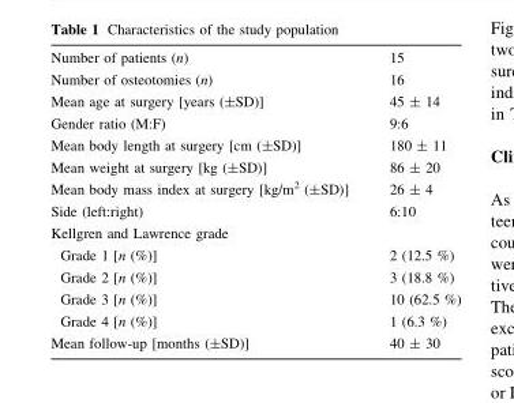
<table><tbody><tr><td>Number of patients (n)</td><td>15</td></tr><tr><td>Number of osteotomies (n)</td><td>16</td></tr><tr><td>Mean age at surgery [years (±SD)]</td><td>45 ± 14</td></tr><tr><td>Gender ratio (M:F)</td><td>9:6</td></tr><tr><td>Mean body length at surgery [cm (±SD)]</td><td>180 ± 11</td></tr><tr><td>Mean weight at surgery [kg (±SD)]</td><td>86 ± 20</td></tr><tr><td>Mean body mass index at surgery [kg/m<sup>2</sup> (±SD)]</td><td>26 ± 4</td></tr><tr><td>Side (left:right)</td><td>6:10</td></tr><tr><td colspan="2">Kellgren and Lawrence grade</td></tr><tr><td>Grade 1 [n (%)]</td><td>2 (12.5 %)</td></tr><tr><td>Grade 2 [n (%)]</td><td>3 (18.8 %)</td></tr><tr><td>Grade 3 [n (%)]</td><td>10 (62.5 %)</td></tr><tr><td>Grade 4 [n (%)]</td><td>1 (6.3 %)</td></tr><tr><td>Mean follow-up [months (±SD)]</td><td>40 ± 30</td></tr></tbody></table>